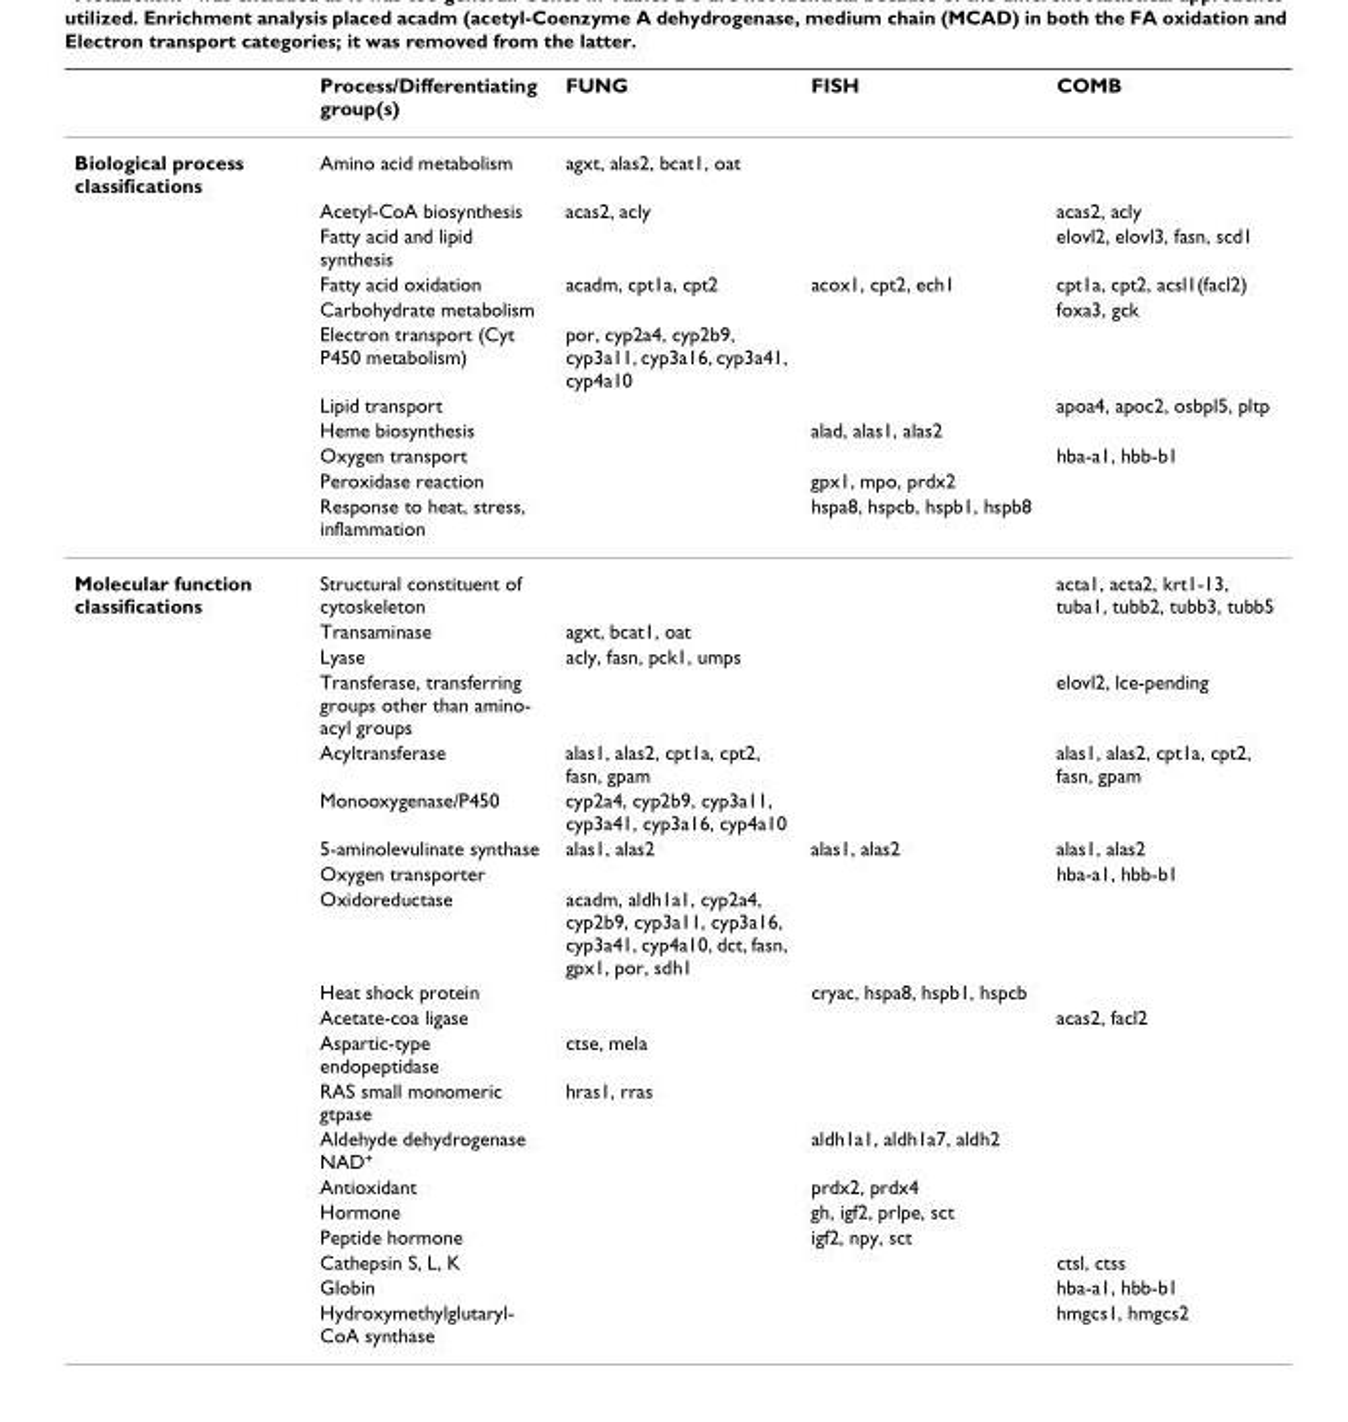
<table><thead><tr><td></td><td>Process/Differentiating group(s)</td><td>FUNG</td><td>FISH</td><td>COMB</td></tr></thead><tbody><tr><td rowspan="11">Biological process classifications</td><td>Amino acid metabolism</td><td>agxt, alas2, bcat1, oat</td><td></td><td></td></tr><tr><td>Acetyl-CoA biosynthesis</td><td>acas2, acly</td><td></td><td>acas2, acly</td></tr><tr><td>Fatty acid and lipid synthesis</td><td></td><td></td><td>elovl2, elovl3, fasn, scd1</td></tr><tr><td>Fatty acid oxidation</td><td>acadm, cpt1a, cpt2</td><td>acox1, cpt2, ech1</td><td>cpt1a, cpt2, acsl1(facl2)</td></tr><tr><td>Carbohydrate metabolism</td><td></td><td></td><td>foxa3, gck</td></tr><tr><td>Electron transport (Cyt P450 metabolism)</td><td>por, cyp2a4, cyp2b9, cyp3a11, cyp3a16, cyp3a41, cyp4a10</td><td></td><td></td></tr><tr><td>Lipid transport</td><td></td><td></td><td>apoa4, apoc2, osbpl5, pltp</td></tr><tr><td>Heme biosynthesis</td><td></td><td>alad, alas1, alas2</td><td></td></tr><tr><td>Oxygen transport</td><td></td><td></td><td>hba-a1, hbb-b1</td></tr><tr><td>Peroxidase reaction</td><td></td><td>gpx1, mpo, prdx2</td><td></td></tr><tr><td>Response to heat, stress, inflammation</td><td></td><td>hspa8, hspcb, hspb1, hspb8</td><td></td></tr><tr><td rowspan="20">Molecular function classifications</td><td>Structural constituent of cytoskeleton</td><td></td><td></td><td>acta1, acta2, krt1-13, tuba1, tubb2, tubb3, tubb5</td></tr><tr><td>Transaminase</td><td>agxt, bcat1, oat</td><td></td><td></td></tr><tr><td>Lyase</td><td>acly, fasn, pck1, umps</td><td></td><td></td></tr><tr><td>Transferase, transferring groups other than amino- acyl groups</td><td></td><td></td><td>elovl2, lce-pending</td></tr><tr><td>Acyltransferase</td><td>alas1, alas2, cpt1a, cpt2, fasn, gpam</td><td></td><td>alas1, alas2, cpt1a, cpt2, fasn, gpam</td></tr><tr><td>Monooxygenase/P450</td><td>cyp2a4, cyp2b9, cyp3a11, cyp3a41, cyp3a16, cyp4a10</td><td></td><td></td></tr><tr><td>5-aminolevulinate synthase</td><td>alas1, alas2</td><td>alas1, alas2</td><td>alas1, alas2</td></tr><tr><td>Oxygen transporter</td><td></td><td></td><td>hba-a1, hbb-b1</td></tr><tr><td>Oxidoreductase</td><td>acadm, aldh1a1, cyp2a4, cyp2b9, cyp3a11, cyp3a16, cyp3a41, cyp4a10, dct, fasn, gpx1, por, sdh1</td><td></td><td></td></tr><tr><td>Heat shock protein</td><td></td><td>cryac, hspa8, hspb1, hspcb</td><td></td></tr><tr><td>Acetate-coa ligase</td><td></td><td></td><td>acas2, facl2</td></tr><tr><td>Aspartic-type endopeptidase</td><td>ctse, mela</td><td></td><td></td></tr><tr><td>RAS small monomeric gtpase</td><td>hras1, rras</td><td></td><td></td></tr><tr><td>Aldehyde dehydrogenase NAD<sup>+</sup></td><td></td><td>aldh1a1, aldh1a7, aldh2</td><td></td></tr><tr><td>Antioxidant</td><td></td><td>prdx2, prdx4</td><td></td></tr><tr><td>Hormone</td><td></td><td>gh, igf2, prlpe, sct</td><td></td></tr><tr><td>Peptide hormone</td><td></td><td>igf2, npy, sct</td><td></td></tr><tr><td>Cathepsin S, L, K</td><td></td><td></td><td>ctsl, ctss</td></tr><tr><td>Globin</td><td></td><td></td><td>hba-a1, hbb-b1</td></tr><tr><td>Hydroxymethylglutaryl- CoA synthase</td><td></td><td></td><td>hmgcs1, hmgcs2</td></tr></tbody></table>